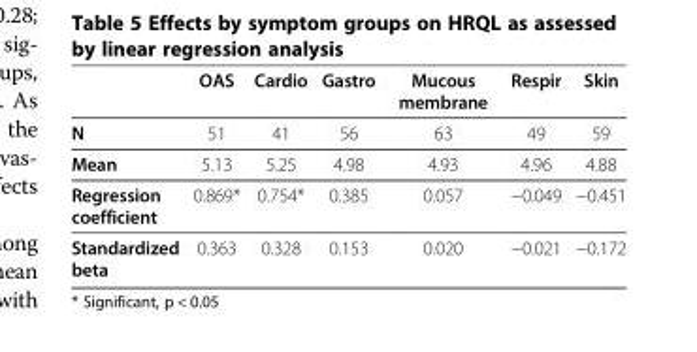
<table><thead><tr><td></td><td>OAS</td><td>Cardio</td><td>Gastro</td><td>Mucous membrane</td><td>Respir</td><td>Skin</td></tr></thead><tbody><tr><td>N</td><td>51</td><td>41</td><td>56</td><td>63</td><td>49</td><td>59</td></tr><tr><td>Mean</td><td>5.13</td><td>5.25</td><td>4.98</td><td>4.93</td><td>4.96</td><td>4.88</td></tr><tr><td>Regression coefficient</td><td>0.869*</td><td>0.754*</td><td>0.385</td><td>0.057</td><td>−0.049</td><td>−0.451</td></tr><tr><td>Standardized beta</td><td>0.363</td><td>0.328</td><td>0.153</td><td>0.020</td><td>−0.021</td><td>−0.172</td></tr></tbody></table>